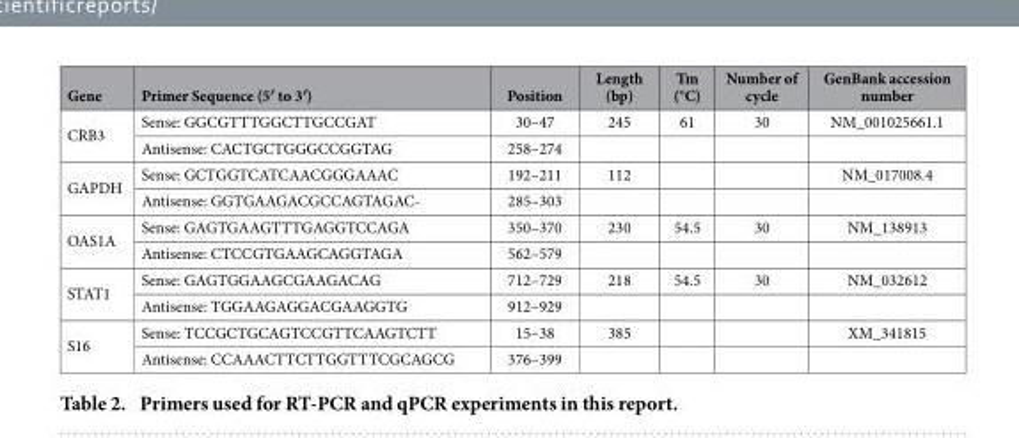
<table><thead><tr><td>Gene</td><td>Primer Sequence (5′ to 3′)</td><td>Position</td><td>Length (bp)</td><td>Tm (°C)</td><td>Number of cycle</td><td>GenBank accession number</td></tr></thead><tbody><tr><td rowspan="2">CRB3</td><td>Sense: GGCGTTTGGCTTGCCGAT</td><td>30–47</td><td>245</td><td>61</td><td>30</td><td>NM_001025661.1</td></tr><tr><td>Antisense: CACTGCTGGGCCGGTAG</td><td>258–274</td><td></td><td></td><td></td><td></td></tr><tr><td rowspan="2">GAPDH</td><td>Sense: GCTGGTCATCAACGGGAAAC</td><td>192–211</td><td>112</td><td></td><td></td><td>NM_017008.4</td></tr><tr><td>Antisense: GGTGAAGACGCCAGTAGAC-</td><td>285–303</td><td></td><td></td><td></td><td></td></tr><tr><td rowspan="2">OAS1A</td><td>Sense: GAGTGAAGTTTGAGGTCCAGA</td><td>350–370</td><td>230</td><td>54.5</td><td>30</td><td>NM_138913</td></tr><tr><td>Antisense: CTCCGTGAAGCAGGTAGA</td><td>562–579</td><td></td><td></td><td></td><td></td></tr><tr><td rowspan="2">STAT1</td><td>Sense: GAGTGGAAGCGAAGACAG</td><td>712–729</td><td>218</td><td>54.5</td><td>30</td><td>NM_032612</td></tr><tr><td>Antisense: TGGAAGAGGACGAAGGTG</td><td>912–929</td><td></td><td></td><td></td><td></td></tr><tr><td rowspan="2">S16</td><td>Sense: TCCGCTGCAGTCCGTTCAAGTCTT</td><td>15–38</td><td>385</td><td></td><td></td><td>XM_341815</td></tr><tr><td>Antisense: CCAAACTTCTTGGTTTCGCAGCG</td><td>376–399</td><td></td><td></td><td></td><td></td></tr></tbody></table>